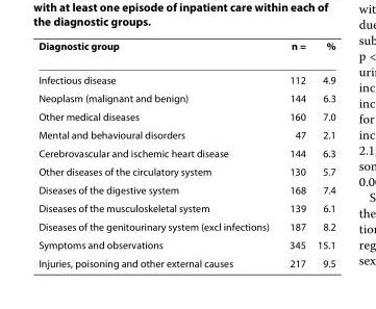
<table><thead><tr><td>Diagnostic group</td><td>n =</td><td>%</td></tr></thead><tbody><tr><td>Infectious disease</td><td>112</td><td>4.9</td></tr><tr><td>Neoplasm (malignant and benign)</td><td>144</td><td>6.3</td></tr><tr><td>Other medical diseases</td><td>160</td><td>7.0</td></tr><tr><td>Mental and behavioural disorders</td><td>47</td><td>2.1</td></tr><tr><td>Cerebrovascular and ischemic heart disease</td><td>144</td><td>6.3</td></tr><tr><td>Other diseases of the circulatory system</td><td>130</td><td>5.7</td></tr><tr><td>Diseases of the digestive system</td><td>168</td><td>7.4</td></tr><tr><td>Diseases of the musculoskeletal system</td><td>139</td><td>6.1</td></tr><tr><td>Diseases of the genitourinary system (excl infections)</td><td>187</td><td>8.2</td></tr><tr><td>Symptoms and observations</td><td>345</td><td>15.1</td></tr><tr><td>Injuries, poisoning and other external causes</td><td>217</td><td>9.5</td></tr></tbody></table>